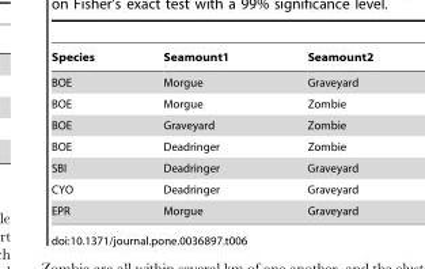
<table><thead><tr><td>Species</td><td>Seamount1</td><td>Seamount2</td></tr></thead><tbody><tr><td>BOE</td><td>Morgue</td><td>Graveyard</td></tr><tr><td>BOE</td><td>Morgue</td><td>Zombie</td></tr><tr><td>BOE</td><td>Graveyard</td><td>Zombie</td></tr><tr><td>BOE</td><td>Deadringer</td><td>Zombie</td></tr><tr><td>SBI</td><td>Deadringer</td><td>Graveyard</td></tr><tr><td>CYO</td><td>Deadringer</td><td>Graveyard</td></tr><tr><td>EPR</td><td>Morgue</td><td>Graveyard</td></tr></tbody></table>